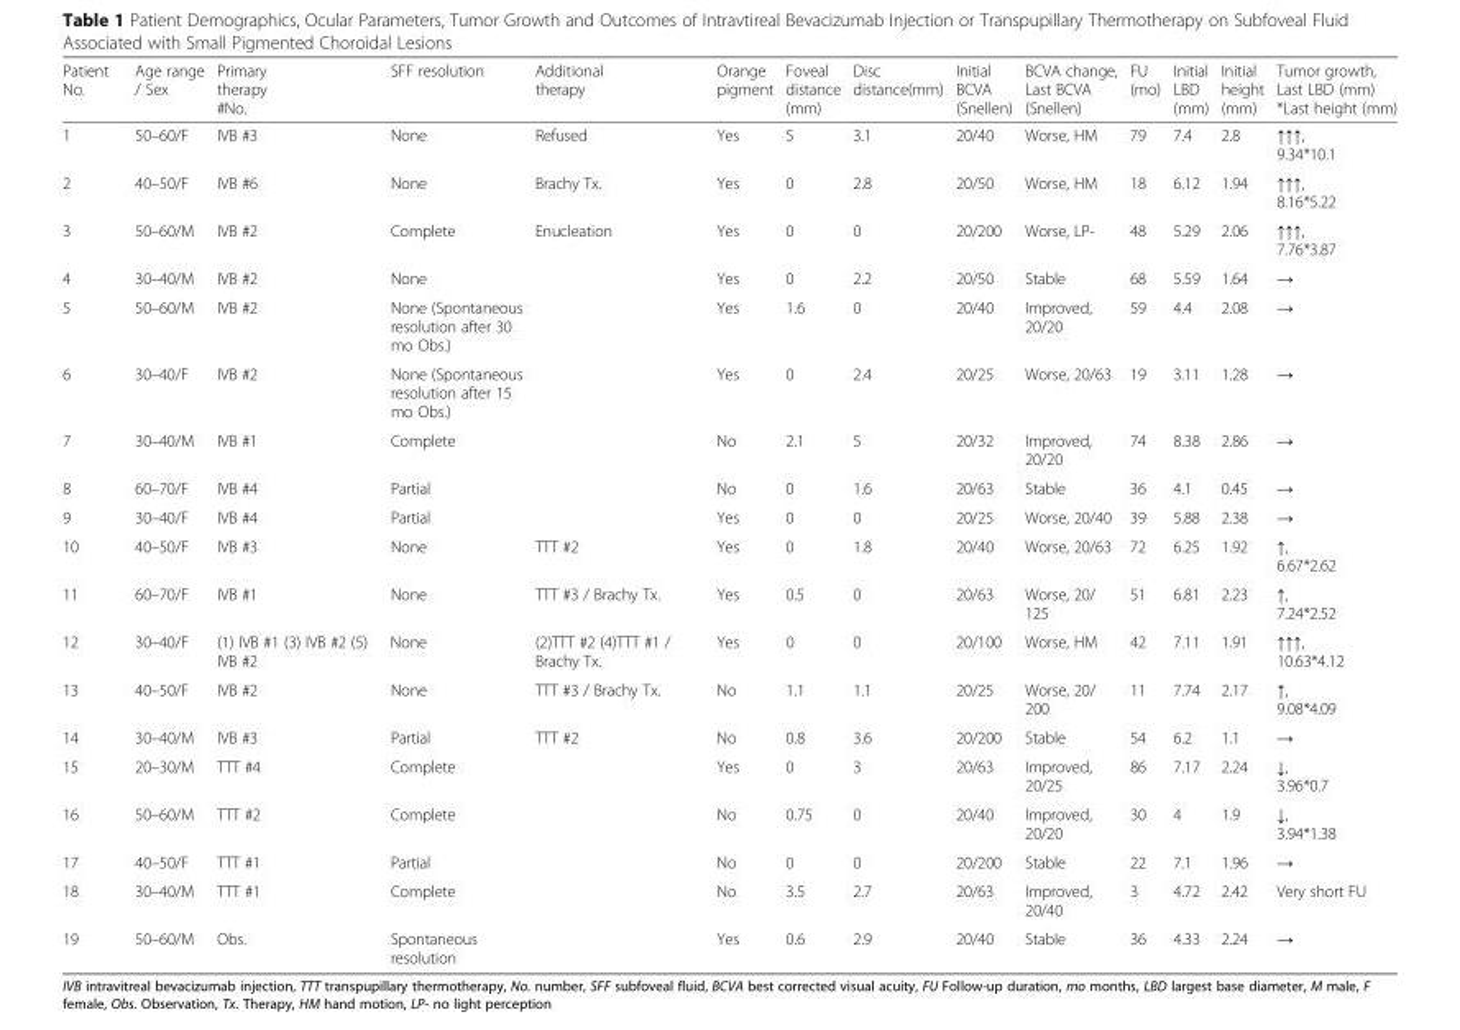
<table><thead><tr><td>Patient No.</td><td>Age range / Sex</td><td>Primary therapy #No.</td><td>SFF resolution</td><td>Additional therapy</td><td>Orange pigment</td><td>Foveal distance (mm)</td><td>Disc distance(mm)</td><td>Initial BCVA (Snellen)</td><td>BCVA change, Last BCVA (Snellen)</td><td>FU (mo)</td><td>Initial LBD (mm)</td><td>Initial height (mm)</td><td>Tumor growth, Last LBD (mm) *Last height (mm)</td></tr></thead><tbody><tr><td>1</td><td>50–60/F</td><td>IVB #3</td><td>None</td><td>Refused</td><td>Yes</td><td>5</td><td>3.1</td><td>20/40</td><td>Worse, HM</td><td>79</td><td>7.4</td><td>2.8</td><td>↑↑↑, 9.34*10.1</td></tr><tr><td>2</td><td>40–50/F</td><td>IVB #6</td><td>None</td><td>Brachy Tx.</td><td>Yes</td><td>0</td><td>2.8</td><td>20/50</td><td>Worse, HM</td><td>18</td><td>6.12</td><td>1.94</td><td>↑↑↑, 8.16*5.22</td></tr><tr><td>3</td><td>50–60/M</td><td>IVB #2</td><td>Complete</td><td>Enucleation</td><td>Yes</td><td>0</td><td>0</td><td>20/200</td><td>Worse, LP-</td><td>48</td><td>5.29</td><td>2.06</td><td>↑↑↑, 7.76*3.87</td></tr><tr><td>4</td><td>30–40/M</td><td>IVB #2</td><td>None</td><td></td><td>Yes</td><td>0</td><td>2.2</td><td>20/50</td><td>Stable</td><td>68</td><td>5.59</td><td>1.64</td><td>→</td></tr><tr><td>5</td><td>50–60/M</td><td>IVB #2</td><td>None (Spontaneous resolution after 30 mo Obs.)</td><td></td><td>Yes</td><td>1.6</td><td>0</td><td>20/40</td><td>Improved, 20/20</td><td>59</td><td>4.4</td><td>2.08</td><td>→</td></tr><tr><td>6</td><td>30–40/F</td><td>IVB #2</td><td>None (Spontaneous resolution after 15 mo Obs.)</td><td></td><td>Yes</td><td>0</td><td>2.4</td><td>20/25</td><td>Worse, 20/63</td><td>19</td><td>3.11</td><td>1.28</td><td>→</td></tr><tr><td>7</td><td>30–40/M</td><td>IVB #1</td><td>Complete</td><td></td><td>No</td><td>2.1</td><td>5</td><td>20/32</td><td>Improved, 20/20</td><td>74</td><td>8.38</td><td>2.86</td><td>→</td></tr><tr><td>8</td><td>60–70/F</td><td>IVB #4</td><td>Partial</td><td></td><td>No</td><td>0</td><td>1.6</td><td>20/63</td><td>Stable</td><td>36</td><td>4.1</td><td>0.45</td><td>→</td></tr><tr><td>9</td><td>30–40/F</td><td>IVB #4</td><td>Partial</td><td></td><td>Yes</td><td>0</td><td>0</td><td>20/25</td><td>Worse, 20/40</td><td>39</td><td>5.88</td><td>2.38</td><td>→</td></tr><tr><td>10</td><td>40–50/F</td><td>IVB #3</td><td>None</td><td>TTT #2</td><td>Yes</td><td>0</td><td>1.8</td><td>20/40</td><td>Worse, 20/63</td><td>72</td><td>6.25</td><td>1.92</td><td>↑, 6.67*2.62</td></tr><tr><td>11</td><td>60–70/F</td><td>IVB #1</td><td>None</td><td>TTT #3 / Brachy Tx.</td><td>Yes</td><td>0.5</td><td>0</td><td>20/63</td><td>Worse, 20/ 125</td><td>51</td><td>6.81</td><td>2.23</td><td>↑, 7.24*2.52</td></tr><tr><td>12</td><td>30–40/F</td><td>(1) IVB #1 (3) IVB #2 (5) IVB #2</td><td>None</td><td>(2)TTT #2 (4)TTT #1 / Brachy Tx.</td><td>Yes</td><td>0</td><td>0</td><td>20/100</td><td>Worse, HM</td><td>42</td><td>7.11</td><td>1.91</td><td>↑↑↑, 10.63*4.12</td></tr><tr><td>13</td><td>40–50/F</td><td>IVB #2</td><td>None</td><td>TTT #3 / Brachy Tx.</td><td>No</td><td>1.1</td><td>1.1</td><td>20/25</td><td>Worse, 20/ 200</td><td>11</td><td>7.74</td><td>2.17</td><td>↑, 9.08*4.09</td></tr><tr><td>14</td><td>30–40/M</td><td>IVB #3</td><td>Partial</td><td>TTT #2</td><td>No</td><td>0.8</td><td>3.6</td><td>20/200</td><td>Stable</td><td>54</td><td>6.2</td><td>1.1</td><td>→</td></tr><tr><td>15</td><td>20–30/M</td><td>TTT #4</td><td>Complete</td><td></td><td>Yes</td><td>0</td><td>3</td><td>20/63</td><td>Improved, 20/25</td><td>86</td><td>7.17</td><td>2.24</td><td>↓, 3.96*0.7</td></tr><tr><td>16</td><td>50–60/M</td><td>TTT #2</td><td>Complete</td><td></td><td>No</td><td>0.75</td><td>0</td><td>20/40</td><td>Improved, 20/20</td><td>30</td><td>4</td><td>1.9</td><td>↓, 3.94*1.38</td></tr><tr><td>17</td><td>40–50/F</td><td>TTT #1</td><td>Partial</td><td></td><td>No</td><td>0</td><td>0</td><td>20/200</td><td>Stable</td><td>22</td><td>7.1</td><td>1.96</td><td>→</td></tr><tr><td>18</td><td>30–40/M</td><td>TTT #1</td><td>Complete</td><td></td><td>No</td><td>3.5</td><td>2.7</td><td>20/63</td><td>Improved, 20/40</td><td>3</td><td>4.72</td><td>2.42</td><td>Very short FU</td></tr><tr><td>19</td><td>50–60/M</td><td>Obs.</td><td>Spontaneous resolution</td><td></td><td>Yes</td><td>0.6</td><td>2.9</td><td>20/40</td><td>Stable</td><td>36</td><td>4.33</td><td>2.24</td><td>→</td></tr></tbody></table>